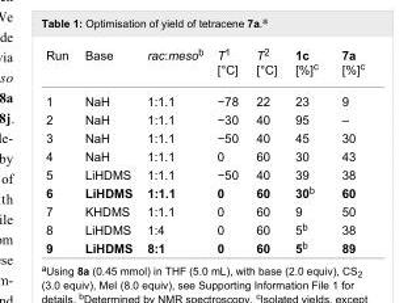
<table><tbody><tr><td>Run</td><td>Base</td><td>rac:meso<sup>b</sup></td><td>T<sup>1</sup> [°C]</td><td>T<sup>2</sup> [°C]</td><td>1c [%]<sup>c</sup></td><td>7a [%]<sup>c</sup></td></tr><tr><td>1</td><td>NaH</td><td>1:1.1</td><td>−78</td><td>22</td><td>23</td><td>9</td></tr><tr><td>2</td><td>NaH</td><td>1:1.1</td><td>−30</td><td>40</td><td>95</td><td>–</td></tr><tr><td>3</td><td>NaH</td><td>1:1.1</td><td>−50</td><td>40</td><td>45</td><td>30</td></tr><tr><td>4</td><td>NaH</td><td>1:1.1</td><td>0</td><td>60</td><td>30</td><td>43</td></tr><tr><td>5</td><td>LiHDMS</td><td>1:1.1</td><td>−50</td><td>40</td><td>39</td><td>38</td></tr><tr><td>6</td><td>LiHDMS</td><td>1:1.1</td><td>0</td><td>60</td><td>30<sup>b</sup></td><td>60</td></tr><tr><td>7</td><td>KHDMS</td><td>1:1.1</td><td>0</td><td>60</td><td>9</td><td>50</td></tr><tr><td>8</td><td>LiHDMS</td><td>1:4</td><td>0</td><td>60</td><td>5<sup>b</sup></td><td>38</td></tr><tr><td>9</td><td>LiHDMS</td><td>8:1</td><td>0</td><td>60</td><td>5<sup>b</sup></td><td>89</td></tr></tbody></table>